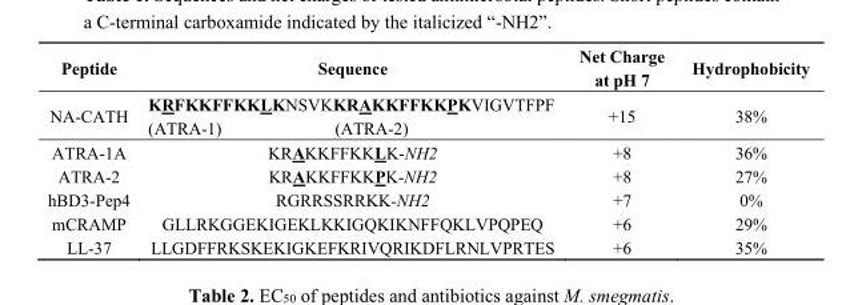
<table><thead><tr><td>Peptide</td><td>Sequence</td><td>Net Charge at pH 7</td><td>Hydrophobicity</td></tr></thead><tbody><tr><td>NA-CATH</td><td>KRFKKFFKKLKNSVKKRAKKFFKKPKVIGVTFPF (ATRA-1) (ATRA-2)</td><td>+15</td><td>38%</td></tr><tr><td>ATRA-1A</td><td>KRAKKFFKKLK-NH2</td><td>+8</td><td>36%</td></tr><tr><td>ATRA-2</td><td>KRAKKFFKKPK-NH2</td><td>+8</td><td>27%</td></tr><tr><td>hBD3-Pep4</td><td>RGRRSSRRKK-NH2</td><td>+7</td><td>0%</td></tr><tr><td>mCRAMP</td><td>GLLRKGGEKIGEKLKKIGQKIKNFFQKLVPQPEQ</td><td>+6</td><td>29%</td></tr><tr><td>LL-37</td><td>LLGDFFRKSKEKIGKEFKRIVQRIKDFLRNLVPRTES</td><td>+6</td><td>35%</td></tr></tbody></table>